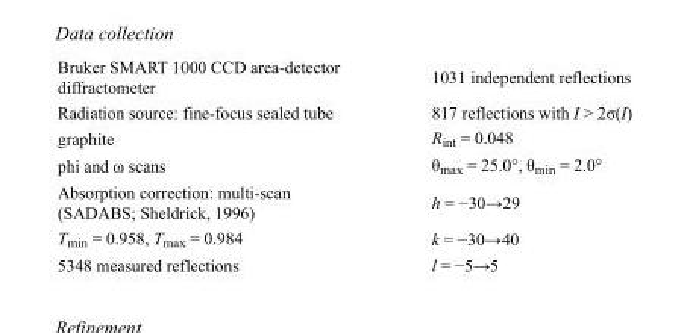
<table><tbody><tr><td>Bruker SMART 1000 CCD area-detector diffractometer</td><td>1031 independent reflections</td></tr><tr><td>Radiation source: fine-focus sealed tube</td><td>817 reflections with I &gt; 2σ(I)</td></tr><tr><td>graphite</td><td>R<sub>int</sub> = 0.048</td></tr><tr><td>phi and ω scans</td><td>θ<sub>max</sub> = 25.0°, θ<sub>min</sub> = 2.0°</td></tr><tr><td>Absorption correction: multi-scan (SADABS; Sheldrick, 1996)</td><td>h = −30→29</td></tr><tr><td>T<sub>min</sub> = 0.958, T<sub>max</sub> = 0.984</td><td>k = −30→40</td></tr><tr><td>5348 measured reflections</td><td>l = −5→5</td></tr></tbody></table>